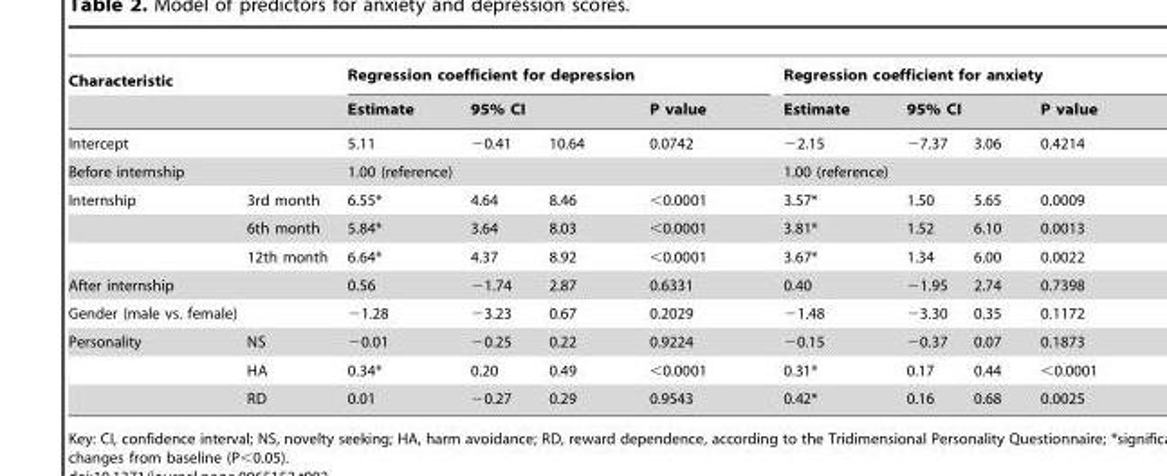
<table><thead><tr><td colspan="2">Characteristic</td><td colspan="4">Regression coefficient for depression</td><td colspan="4">Regression coefficient for anxiety</td></tr><tr><td></td><td></td><td rowspan="2">Estimate 5.11</td><td colspan="2">95% CI</td><td rowspan="2">P value 0.0742</td><td rowspan="2">Estimate −2.15</td><td colspan="2">95% CI</td><td rowspan="2">P value 0.4214</td></tr><tr><td colspan="2">Intercept</td><td>−0.41</td><td>10.64</td><td>−7.37</td><td>3.06</td></tr></thead><tbody><tr><td colspan="2">Before internship</td><td colspan="4">1.00 (reference)</td><td colspan="4">1.00 (reference)</td></tr><tr><td rowspan="3">Internship</td><td>3rd month</td><td>6.55*</td><td>4.64</td><td>8.46</td><td>&lt;0.0001</td><td>3.57*</td><td>1.50</td><td>5.65</td><td>0.0009</td></tr><tr><td>6th month</td><td>5.84*</td><td>3.64</td><td>8.03</td><td>&lt;0.0001</td><td>3.81*</td><td>1.52</td><td>6.10</td><td>0.0013</td></tr><tr><td>12th month</td><td>6.64*</td><td>4.37</td><td>8.92</td><td>&lt;0.0001</td><td>3.67*</td><td>1.34</td><td>6.00</td><td>0.0022</td></tr><tr><td colspan="2">After internship</td><td>0.56</td><td>−1.74</td><td>2.87</td><td>0.6331</td><td>0.40</td><td>−1.95</td><td>2.74</td><td>0.7398</td></tr><tr><td colspan="2">Gender (male vs. female)</td><td>−1.28</td><td>−3.23</td><td>0.67</td><td>0.2029</td><td>−1.48</td><td>−3.30</td><td>0.35</td><td>0.1172</td></tr><tr><td rowspan="3">Personality</td><td>NS</td><td>−0.01</td><td>−0.25</td><td>0.22</td><td>0.9224</td><td>−0.15</td><td>−0.37</td><td>0.07</td><td>0.1873</td></tr><tr><td>HA</td><td>0.34*</td><td>0.20</td><td>0.49</td><td>&lt;0.0001</td><td>0.31*</td><td>0.17</td><td>0.44</td><td>&lt;0.0001</td></tr><tr><td>RD</td><td>0.01</td><td>−0.27</td><td>0.29</td><td>0.9543</td><td>0.42*</td><td>0.16</td><td>0.68</td><td>0.0025</td></tr></tbody></table>